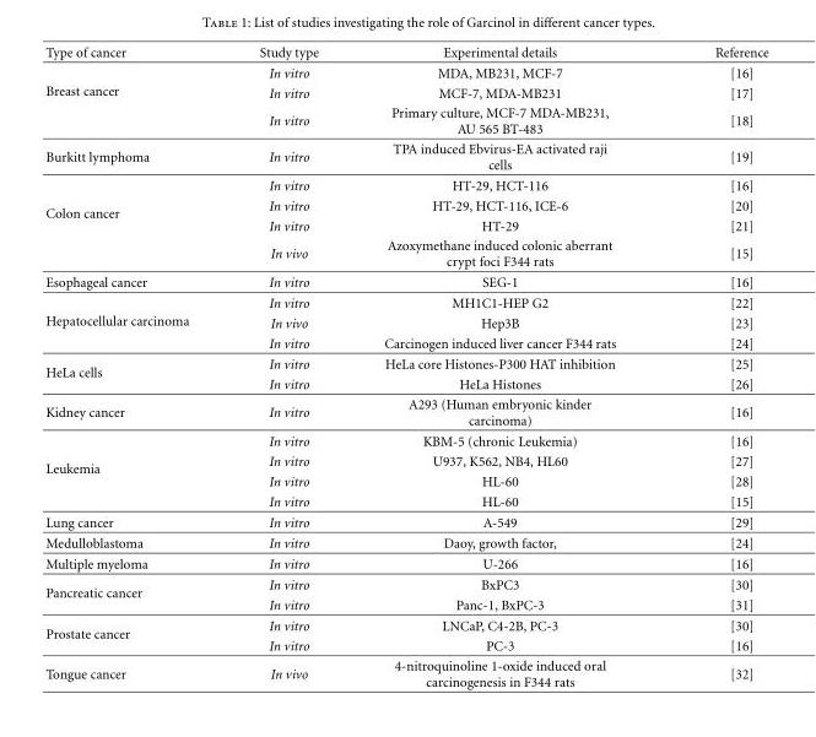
<table><thead><tr><td>Type of cancer</td><td>Study type</td><td>Experimental details</td><td>Reference</td></tr></thead><tbody><tr><td rowspan="3">Breast cancer</td><td>In vitro</td><td>MDA, MB231, MCF-7</td><td>[16]</td></tr><tr><td>In vitro</td><td>MCF-7, MDA-MB231</td><td>[17]</td></tr><tr><td>In vitro</td><td>Primary culture, MCF-7 MDA-MB231, AU 565 BT-483</td><td>[18]</td></tr><tr><td>Burkitt lymphoma</td><td>In vitro</td><td>TPA induced Ebvirus-EA activated raji cells</td><td>[19]</td></tr><tr><td rowspan="4">Colon cancer</td><td>In vitro</td><td>HT-29, HCT-116</td><td>[16]</td></tr><tr><td>In vitro</td><td>HT-29, HCT-116, ICE-6</td><td>[20]</td></tr><tr><td>In vitro</td><td>HT-29</td><td>[21]</td></tr><tr><td>In vivo</td><td>Azoxymethane induced colonic aberrant crypt foci F344 rats</td><td>[15]</td></tr><tr><td>Esophageal cancer</td><td>In vitro</td><td>SEG-1</td><td>[16]</td></tr><tr><td rowspan="3">Hepatocellular carcinoma</td><td>In vitro</td><td>MH1C1-HEP G2</td><td>[22]</td></tr><tr><td>In vivo</td><td>Hep3B</td><td>[23]</td></tr><tr><td>In vitro</td><td>Carcinogen induced liver cancer F344 rats</td><td>[24]</td></tr><tr><td rowspan="2">HeLa cells</td><td>In vitro</td><td>HeLa core Histones-P300 HAT inhibition</td><td>[25]</td></tr><tr><td>In vitro</td><td>HeLa Histones</td><td>[26]</td></tr><tr><td>Kidney cancer</td><td>In vitro</td><td>A293 (Human embryonic kinder carcinoma)</td><td>[16]</td></tr><tr><td rowspan="4">Leukemia</td><td>In vitro</td><td>KBM-5 (chronic Leukemia)</td><td>[16]</td></tr><tr><td>In vitro</td><td>U937, K562, NB4, HL60</td><td>[27]</td></tr><tr><td>In vitro</td><td>HL-60</td><td>[28]</td></tr><tr><td>In vitro</td><td>HL-60</td><td>[15]</td></tr><tr><td>Lung cancer</td><td>In vitro</td><td>A-549</td><td>[29]</td></tr><tr><td>Medulloblastoma</td><td>In vitro</td><td>Daoy, growth factor,</td><td>[24]</td></tr><tr><td>Multiple myeloma</td><td>In vitro</td><td>U-266</td><td>[16]</td></tr><tr><td rowspan="2">Pancreatic cancer</td><td>In vitro</td><td>BxPC3</td><td>[30]</td></tr><tr><td>In vitro</td><td>Panc-1, BxPC-3</td><td>[31]</td></tr><tr><td rowspan="2">Prostate cancer</td><td>In vitro</td><td>LNCaP, C4-2B, PC-3</td><td>[30]</td></tr><tr><td>In vitro</td><td>PC-3</td><td>[16]</td></tr><tr><td>Tongue cancer</td><td>In vivo</td><td>4-nitroquinoline 1-oxide induced oral carcinogenesis in F344 rats</td><td>[32]</td></tr></tbody></table>